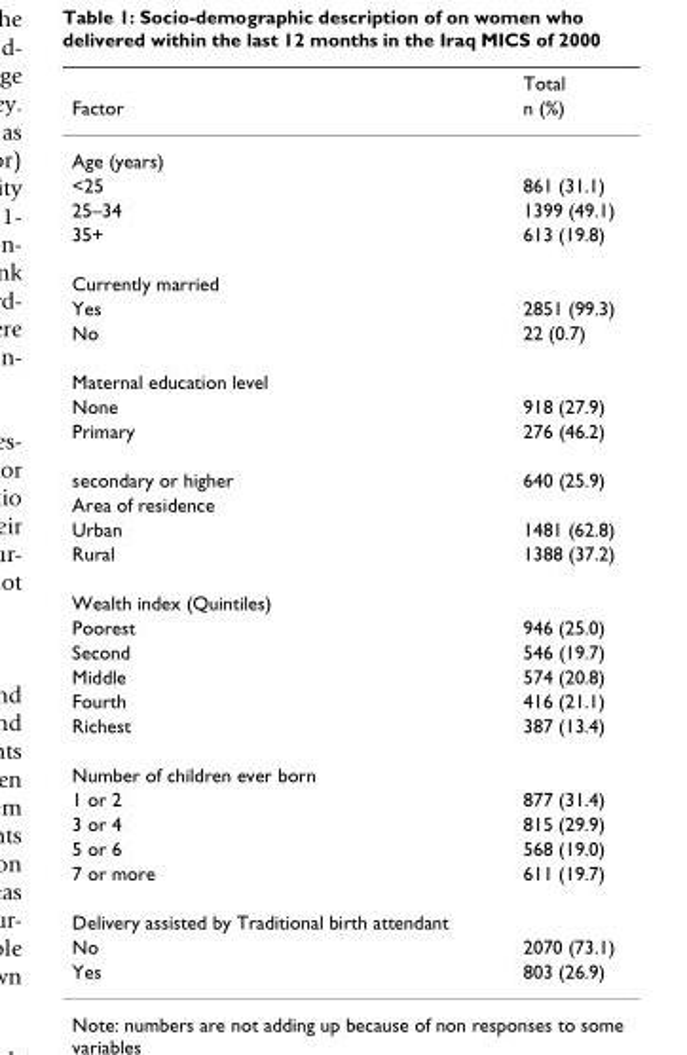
<table><thead><tr><td rowspan="2">Factor</td><td rowspan="2">Total n (%)</td></tr><tr></tr></thead><tbody><tr><td colspan="2">Age (years)</td></tr><tr><td>&lt;25</td><td>861 (31.1)</td></tr><tr><td>25–34</td><td>1399 (49.1)</td></tr><tr><td>35+</td><td>613 (19.8)</td></tr><tr><td colspan="2">Currently married</td></tr><tr><td>Yes</td><td>2851 (99.3)</td></tr><tr><td>No</td><td>22 (0.7)</td></tr><tr><td colspan="2">Maternal education level</td></tr><tr><td>None</td><td>918 (27.9)</td></tr><tr><td>Primary</td><td>276 (46.2)</td></tr><tr><td>secondary or higher</td><td>640 (25.9)</td></tr><tr><td colspan="2">Area of residence</td></tr><tr><td>Urban</td><td>1481 (62.8)</td></tr><tr><td>Rural</td><td>1388 (37.2)</td></tr><tr><td colspan="2">Wealth index (Quintiles)</td></tr><tr><td>Poorest</td><td>946 (25.0)</td></tr><tr><td>Second</td><td>546 (19.7)</td></tr><tr><td>Middle</td><td>574 (20.8)</td></tr><tr><td>Fourth</td><td>416 (21.1)</td></tr><tr><td>Richest</td><td>387 (13.4)</td></tr><tr><td colspan="2">Number of children ever born</td></tr><tr><td>1 or 2</td><td>877 (31.4)</td></tr><tr><td>3 or 4</td><td>815 (29.9)</td></tr><tr><td>5 or 6</td><td>568 (19.0)</td></tr><tr><td>7 or more</td><td>611 (19.7)</td></tr><tr><td colspan="2">Delivery assisted by Traditional birth attendant</td></tr><tr><td>No</td><td>2070 (73.1)</td></tr><tr><td>Yes</td><td>803 (26.9)</td></tr></tbody></table>